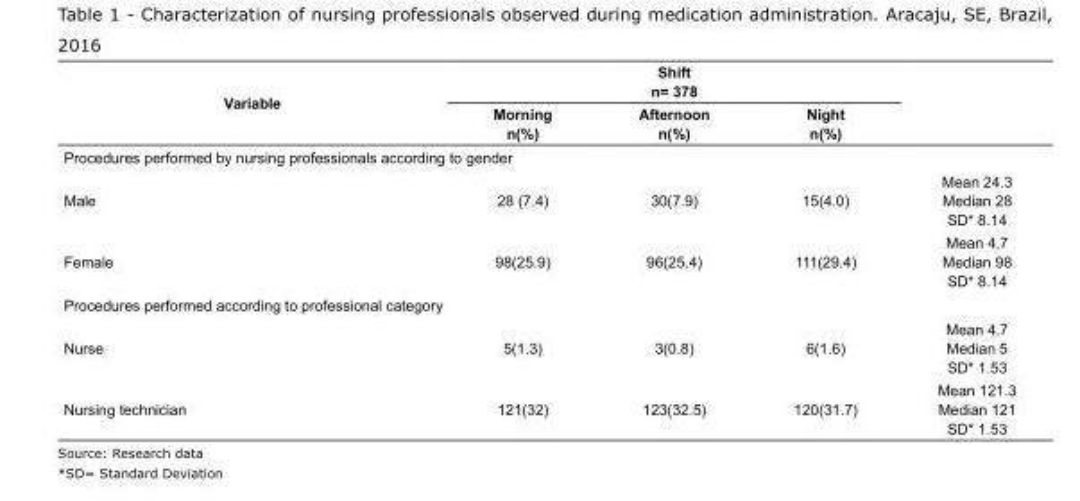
<table><tbody><tr><td rowspan="2">Variable</td><td colspan="3">Shift n= 378</td><td></td></tr><tr><td>Morning n(%)</td><td>Afternoon n(%)</td><td>Night n(%)</td><td></td></tr><tr><td colspan="5">Procedures performed by nursing professionals according to gender</td></tr><tr><td>Male</td><td>28 (7.4)</td><td>30(7.9)</td><td>15(4.0)</td><td>Mean 24.3 Median 28 SD* 8.14</td></tr><tr><td>Female</td><td>98(25.9)</td><td>96(25.4)</td><td>111(29.4)</td><td>Mean 4.7 Median 98 SD* 8.14</td></tr><tr><td colspan="5">Procedures performed according to professional category</td></tr><tr><td>Nurse</td><td>5(1.3)</td><td>3(0.8)</td><td>6(1.6)</td><td>Mean 4.7 Median 5 SD* 1.53</td></tr><tr><td>Nursing technician</td><td>121(32)</td><td>123(32.5)</td><td>120(31.7)</td><td>Mean 121.3 Median 121 SD* 1.53</td></tr></tbody></table>